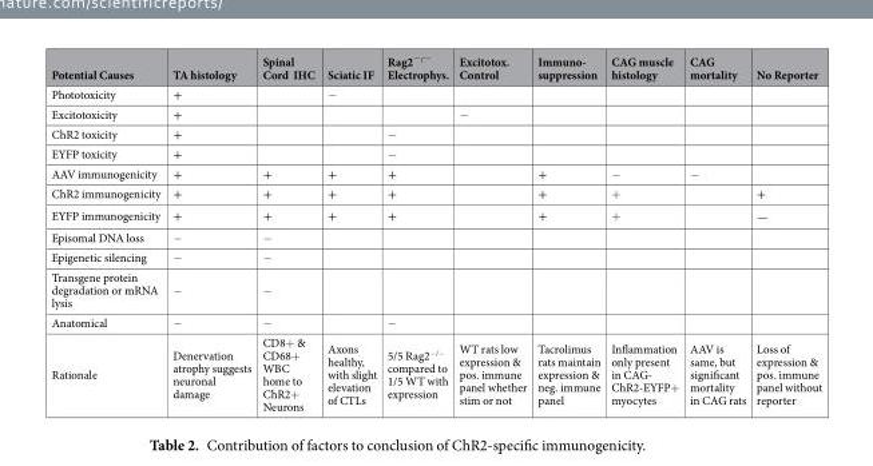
<table><thead><tr><td>Potential Causes</td><td>TA histology</td><td>Spinal Cord IHC</td><td>Sciatic IF</td><td>Rag2<sup>−/−</sup> Electrophys.</td><td>Excitotox. Control</td><td>Immuno- suppression</td><td>CAG muscle histology</td><td>CAG mortality</td><td>No Reporter</td></tr></thead><tbody><tr><td>Phototoxicity</td><td>+</td><td></td><td>−</td><td></td><td></td><td></td><td></td><td></td><td></td></tr><tr><td>Excitotoxicity</td><td>+</td><td></td><td></td><td></td><td>−</td><td></td><td></td><td></td><td></td></tr><tr><td>ChR2 toxicity</td><td>+</td><td></td><td></td><td>−</td><td></td><td></td><td></td><td></td><td></td></tr><tr><td>EYFP toxicity</td><td>+</td><td></td><td></td><td>−</td><td></td><td></td><td></td><td></td><td></td></tr><tr><td>AAV immunogenicity</td><td>+</td><td>+</td><td>+</td><td>+</td><td></td><td>+</td><td>−</td><td>−</td><td></td></tr><tr><td>ChR2 immunogenicity</td><td>+</td><td>+</td><td>+</td><td>+</td><td></td><td>+</td><td>+</td><td></td><td>+</td></tr><tr><td>EYFP immunogenicity</td><td>+</td><td>+</td><td>+</td><td>+</td><td></td><td>+</td><td>+</td><td></td><td>−</td></tr><tr><td>Episomal DNA loss</td><td>−</td><td>−</td><td></td><td></td><td></td><td></td><td></td><td></td><td></td></tr><tr><td>Epigenetic silencing</td><td>−</td><td>−</td><td></td><td></td><td></td><td></td><td></td><td></td><td></td></tr><tr><td>Transgene protein degradation or mRNA lysis</td><td>−</td><td>−</td><td></td><td></td><td></td><td></td><td></td><td></td><td></td></tr><tr><td>Anatomical</td><td>−</td><td>−</td><td></td><td>−</td><td></td><td></td><td></td><td></td><td></td></tr><tr><td>Rationale</td><td>Denervation atrophy suggests neuronal damage</td><td>CD8+ &amp; CD68+ WBC home to ChR2+ Neurons</td><td>Axons healthy, with slight elevation of CTLs</td><td>5/5 Rag2<sup>−/−</sup> compared to 1/5 WT with expression</td><td>WT rats low expression &amp; pos. immune panel whether stim or not</td><td>Tacrolimus rats maintain expression &amp; neg. immune panel</td><td>Inflammation only present in CAG- ChR2-EYFP+ myocytes</td><td>AAV is same, but significant mortality in CAG rats</td><td>Loss of expression &amp; pos. immune panel without reporter</td></tr></tbody></table>